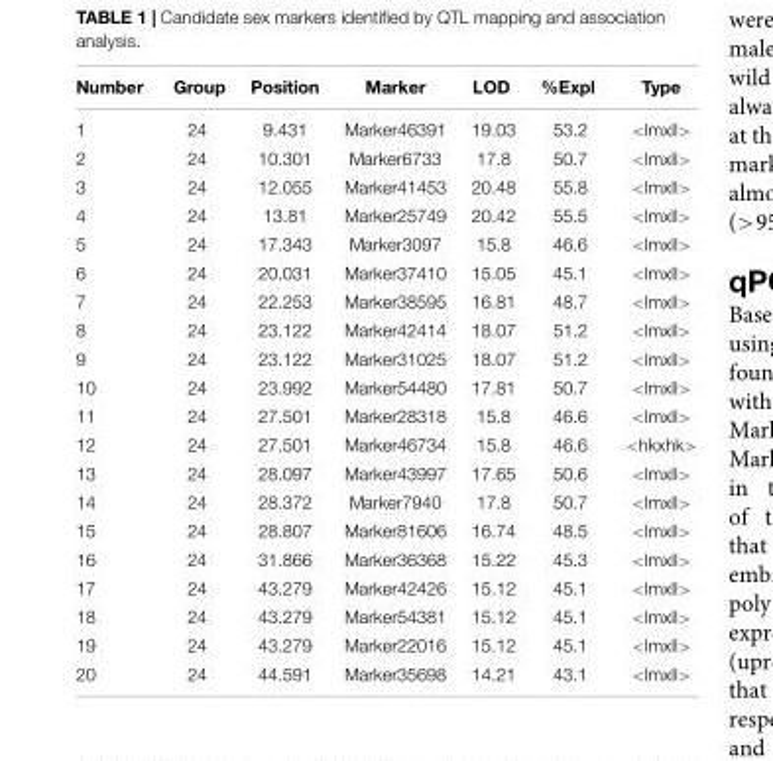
<table><thead><tr><td>Number</td><td>Group</td><td>Position</td><td>Marker</td><td>LOD</td><td>%Expl</td><td>Type</td></tr></thead><tbody><tr><td>1</td><td>24</td><td>9.431</td><td>Marker46391</td><td>19.03</td><td>53.2</td><td>&lt;lmxll&gt;</td></tr><tr><td>2</td><td>24</td><td>10.301</td><td>Marker6733</td><td>17.8</td><td>50.7</td><td>&lt;lmxll&gt;</td></tr><tr><td>3</td><td>24</td><td>12.055</td><td>Marker41453</td><td>20.48</td><td>55.8</td><td>&lt;lmxll&gt;</td></tr><tr><td>4</td><td>24</td><td>13.81</td><td>Marker25749</td><td>20.42</td><td>55.5</td><td>&lt;lmxll&gt;</td></tr><tr><td>5</td><td>24</td><td>17.343</td><td>Marker3097</td><td>15.8</td><td>46.6</td><td>&lt;lmxll&gt;</td></tr><tr><td>6</td><td>24</td><td>20.031</td><td>Marker37410</td><td>15.05</td><td>45.1</td><td>&lt;lmxll&gt;</td></tr><tr><td>7</td><td>24</td><td>22.253</td><td>Marker38595</td><td>16.81</td><td>48.7</td><td>&lt;lmxll&gt;</td></tr><tr><td>8</td><td>24</td><td>23.122</td><td>Marker42414</td><td>18.07</td><td>51.2</td><td>&lt;lmxll&gt;</td></tr><tr><td>9</td><td>24</td><td>23.122</td><td>Marker31025</td><td>18.07</td><td>51.2</td><td>&lt;lmxll&gt;</td></tr><tr><td>10</td><td>24</td><td>23.992</td><td>Marker54480</td><td>17.81</td><td>50.7</td><td>&lt;lmxll&gt;</td></tr><tr><td>11</td><td>24</td><td>27.501</td><td>Marker28318</td><td>15.8</td><td>46.6</td><td>&lt;lmxll&gt;</td></tr><tr><td>12</td><td>24</td><td>27.501</td><td>Marker46734</td><td>15.8</td><td>46.6</td><td>&lt;hkxhk&gt;</td></tr><tr><td>13</td><td>24</td><td>28.097</td><td>Marker43997</td><td>17.65</td><td>50.6</td><td>&lt;lmxll&gt;</td></tr><tr><td>14</td><td>24</td><td>28.372</td><td>Marker7940</td><td>17.8</td><td>50.7</td><td>&lt;lmxll&gt;</td></tr><tr><td>15</td><td>24</td><td>28.807</td><td>Marker81606</td><td>16.74</td><td>48.5</td><td>&lt;lmxll&gt;</td></tr><tr><td>16</td><td>24</td><td>31.866</td><td>Marker36368</td><td>15.22</td><td>45.3</td><td>&lt;lmxll&gt;</td></tr><tr><td>17</td><td>24</td><td>43.279</td><td>Marker42426</td><td>15.12</td><td>45.1</td><td>&lt;lmxll&gt;</td></tr><tr><td>18</td><td>24</td><td>43.279</td><td>Marker54381</td><td>15.12</td><td>45.1</td><td>&lt;lmxll&gt;</td></tr><tr><td>19</td><td>24</td><td>43.279</td><td>Marker22016</td><td>15.12</td><td>45.1</td><td>&lt;lmxll&gt;</td></tr><tr><td>20</td><td>24</td><td>44.591</td><td>Marker35698</td><td>14.21</td><td>43.1</td><td>&lt;lmxll&gt;</td></tr></tbody></table>